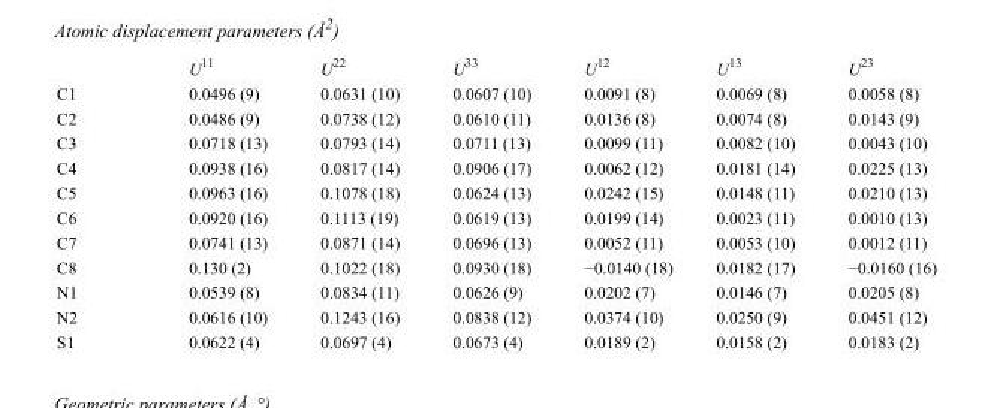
<table><thead><tr><td></td><td>U<sup>11</sup></td><td>U<sup>22</sup></td><td>U<sup>33</sup></td><td>U<sup>12</sup></td><td>U<sup>13</sup></td><td>U<sup>23</sup></td></tr></thead><tbody><tr><td>C1</td><td>0.0496 (9)</td><td>0.0631 (10)</td><td>0.0607 (10)</td><td>0.0091 (8)</td><td>0.0069 (8)</td><td>0.0058 (8)</td></tr><tr><td>C2</td><td>0.0486 (9)</td><td>0.0738 (12)</td><td>0.0610 (11)</td><td>0.0136 (8)</td><td>0.0074 (8)</td><td>0.0143 (9)</td></tr><tr><td>C3</td><td>0.0718 (13)</td><td>0.0793 (14)</td><td>0.0711 (13)</td><td>0.0099 (11)</td><td>0.0082 (10)</td><td>0.0043 (10)</td></tr><tr><td>C4</td><td>0.0938 (16)</td><td>0.0817 (14)</td><td>0.0906 (17)</td><td>0.0062 (12)</td><td>0.0181 (14)</td><td>0.0225 (13)</td></tr><tr><td>C5</td><td>0.0963 (16)</td><td>0.1078 (18)</td><td>0.0624 (13)</td><td>0.0242 (15)</td><td>0.0148 (11)</td><td>0.0210 (13)</td></tr><tr><td>C6</td><td>0.0920 (16)</td><td>0.1113 (19)</td><td>0.0619 (13)</td><td>0.0199 (14)</td><td>0.0023 (11)</td><td>0.0010 (13)</td></tr><tr><td>C7</td><td>0.0741 (13)</td><td>0.0871 (14)</td><td>0.0696 (13)</td><td>0.0052 (11)</td><td>0.0053 (10)</td><td>0.0012 (11)</td></tr><tr><td>C8</td><td>0.130 (2)</td><td>0.1022 (18)</td><td>0.0930 (18)</td><td>−0.0140 (18)</td><td>0.0182 (17)</td><td>−0.0160 (16)</td></tr><tr><td>N1</td><td>0.0539 (8)</td><td>0.0834 (11)</td><td>0.0626 (9)</td><td>0.0202 (7)</td><td>0.0146 (7)</td><td>0.0205 (8)</td></tr><tr><td>N2</td><td>0.0616 (10)</td><td>0.1243 (16)</td><td>0.0838 (12)</td><td>0.0374 (10)</td><td>0.0250 (9)</td><td>0.0451 (12)</td></tr><tr><td>S1</td><td>0.0622 (4)</td><td>0.0697 (4)</td><td>0.0673 (4)</td><td>0.0189 (2)</td><td>0.0158 (2)</td><td>0.0183 (2)</td></tr></tbody></table>